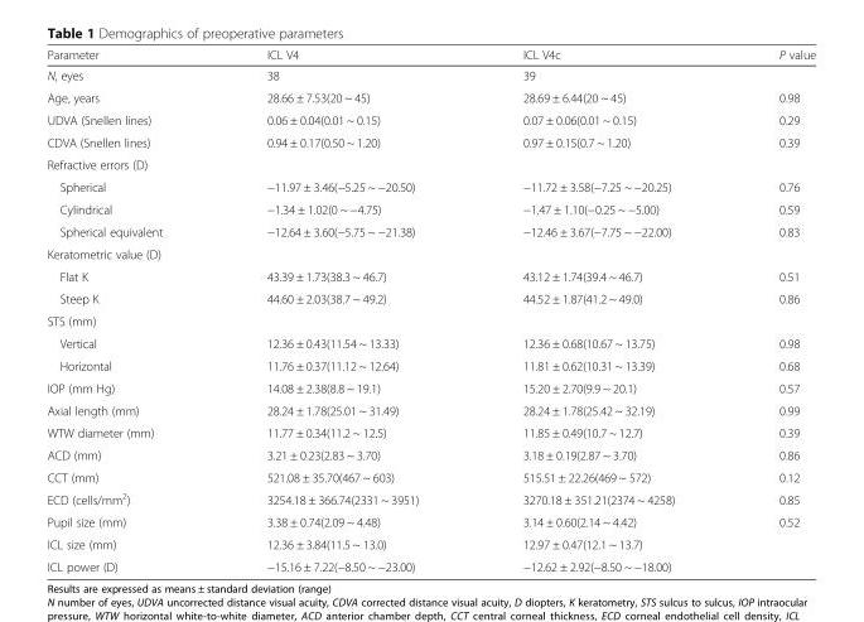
<table><thead><tr><td>Parameter</td><td>ICL V4</td><td>ICL V4c</td><td>P value</td></tr></thead><tbody><tr><td>N, eyes</td><td>38</td><td>39</td><td></td></tr><tr><td>Age, years</td><td>28.66 ± 7.53(20 ~ 45)</td><td>28.69 ± 6.44(20 ~ 45)</td><td>0.98</td></tr><tr><td>UDVA (Snellen lines)</td><td>0.06 ± 0.04(0.01 ~ 0.15)</td><td>0.07 ± 0.06(0.01 ~ 0.15)</td><td>0.29</td></tr><tr><td>CDVA (Snellen lines)</td><td>0.94 ± 0.17(0.50 ~ 1.20)</td><td>0.97 ± 0.15(0.7 ~ 1.20)</td><td>0.39</td></tr><tr><td colspan="4">Refractive errors (D)</td></tr><tr><td>Spherical</td><td>−11.97 ± 3.46(−5.25 ~ −20.50)</td><td>−11.72 ± 3.58(−7.25 ~ −20.25)</td><td>0.76</td></tr><tr><td>Cylindrical</td><td>−1.34 ± 1.02(0 ~ −4.75)</td><td>−1.47 ± 1.10(−0.25 ~ −5.00)</td><td>0.59</td></tr><tr><td>Spherical equivalent</td><td>−12.64 ± 3.60(−5.75 ~ −21.38)</td><td>−12.46 ± 3.67(−7.75 ~ −22.00)</td><td>0.83</td></tr><tr><td colspan="4">Keratometric value (D)</td></tr><tr><td>Flat K</td><td>43.39 ± 1.73(38.3 ~ 46.7)</td><td>43.12 ± 1.74(39.4 ~ 46.7)</td><td>0.51</td></tr><tr><td>Steep K</td><td>44.60 ± 2.03(38.7 ~ 49.2)</td><td>44.52 ± 1.87(41.2 ~ 49.0)</td><td>0.86</td></tr><tr><td colspan="4">STS (mm)</td></tr><tr><td>Vertical</td><td>12.36 ± 0.43(11.54 ~ 13.33)</td><td>12.36 ± 0.68(10.67 ~ 13.75)</td><td>0.98</td></tr><tr><td>Horizontal</td><td>11.76 ± 0.37(11.12 ~ 12.64)</td><td>11.81 ± 0.62(10.31 ~ 13.39)</td><td>0.68</td></tr><tr><td>IOP (mm Hg)</td><td>14.08 ± 2.38(8.8 ~ 19.1)</td><td>15.20 ± 2.70(9.9 ~ 20.1)</td><td>0.57</td></tr><tr><td>Axial length (mm)</td><td>28.24 ± 1.78(25.01 ~ 31.49)</td><td>28.24 ± 1.78(25.42 ~ 32.19)</td><td>0.99</td></tr><tr><td>WTW diameter (mm)</td><td>11.77 ± 0.34(11.2 ~ 12.5)</td><td>11.85 ± 0.49(10.7 ~ 12.7)</td><td>0.39</td></tr><tr><td>ACD (mm)</td><td>3.21 ± 0.23(2.83 ~ 3.70)</td><td>3.18 ± 0.19(2.87 ~ 3.70)</td><td>0.86</td></tr><tr><td>CCT (mm)</td><td>521.08 ± 35.70(467 ~ 603)</td><td>515.51 ± 22.26(469 ~ 572)</td><td>0.12</td></tr><tr><td>ECD (cells/mm<sup>2</sup>)</td><td>3254.18 ± 366.74(2331 ~ 3951)</td><td>3270.18 ± 351.21(2374 ~ 4258)</td><td>0.85</td></tr><tr><td>Pupil size (mm)</td><td>3.38 ± 0.74(2.09 ~ 4.48)</td><td>3.14 ± 0.60(2.14 ~ 4.42)</td><td>0.52</td></tr><tr><td>ICL size (mm)</td><td>12.36 ± 3.84(11.5 ~ 13.0)</td><td>12.97 ± 0.47(12.1 ~ 13.7)</td><td></td></tr><tr><td>ICL power (D)</td><td>−15.16 ± 7.22(−8.50 ~ −23.00)</td><td>−12.62 ± 2.92(−8.50 ~ −18.00)</td><td></td></tr></tbody></table>